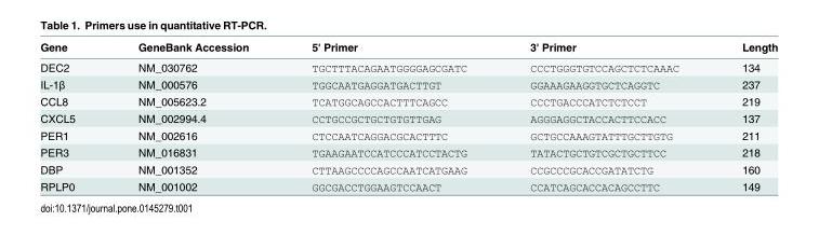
<table><thead><tr><td>Gene</td><td>GeneBank Accession</td><td>5&#x27; Primer</td><td>3&#x27; Primer</td><td>Length</td></tr></thead><tbody><tr><td>DEC2</td><td>NM_030762</td><td>TGCTTTACAGAATGGGGAGCGATC</td><td>CCCTGGGTGTCCAGCTCTCAAAC</td><td>134</td></tr><tr><td>IL-1β</td><td>NM_000576</td><td>TGGCAATGAGGATGACTTGT</td><td>GGAAAGAAGGTGCTCAGGTC</td><td>237</td></tr><tr><td>CCL8</td><td>NM_005623.2</td><td>TCATGGCAGCCACTTTCAGCC</td><td>CCCTGACCCATCTCTCCT</td><td>219</td></tr><tr><td>CXCL5</td><td>NM_002994.4</td><td>CCTGCCGCTGCTGTGTTGAG</td><td>AGGGAGGCTACCACTTCCACC</td><td>137</td></tr><tr><td>PER1</td><td>NM_002616</td><td>CTCCAATCAGGACGCACTTTC</td><td>GCTGCCAAAGTATTTGCTTGTG</td><td>211</td></tr><tr><td>PER3</td><td>NM_016831</td><td>TGAAGAATCCATCCCATCCTACTG</td><td>TATACTGCTGTCGCTGCTTCC</td><td>218</td></tr><tr><td>DBP</td><td>NM_001352</td><td>CTTAAGCCCCAGCCAATCATGAAG</td><td>CCGCCCGCACCGATATCTG</td><td>160</td></tr><tr><td>RPLP0</td><td>NM_001002</td><td>GGCGACCTGGAAGTCCAACT</td><td>CCATCAGCACCACAGCCTTC</td><td>149</td></tr></tbody></table>